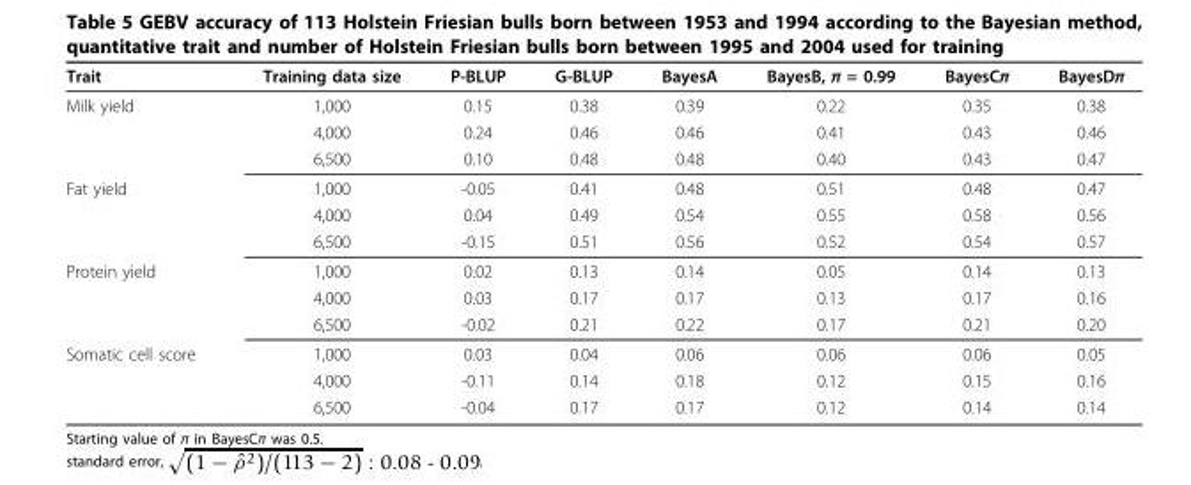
<table><thead><tr><td>Trait</td><td>Training data size</td><td>P-BLUP</td><td>G-BLUP</td><td>BayesA</td><td>BayesB, π = 0.99</td><td>BayesCπ</td><td>BayesDπ</td></tr></thead><tbody><tr><td rowspan="3">Milk yield</td><td>1,000</td><td>0.15</td><td>0.38</td><td>0.39</td><td>0.22</td><td>0.35</td><td>0.38</td></tr><tr><td>4,000</td><td>0.24</td><td>0.46</td><td>0.46</td><td>0.41</td><td>0.43</td><td>0.46</td></tr><tr><td>6,500</td><td>0.10</td><td>0.48</td><td>0.48</td><td>0.40</td><td>0.43</td><td>0.47</td></tr><tr><td rowspan="3">Fat yield</td><td>1,000</td><td>-0.05</td><td>0.41</td><td>0.48</td><td>0.51</td><td>0.48</td><td>0.47</td></tr><tr><td>4,000</td><td>0.04</td><td>0.49</td><td>0.54</td><td>0.55</td><td>0.58</td><td>0.56</td></tr><tr><td>6,500</td><td>-0.15</td><td>0.51</td><td>0.56</td><td>0.52</td><td>0.54</td><td>0.57</td></tr><tr><td rowspan="3">Protein yield</td><td>1,000</td><td>0.02</td><td>0.13</td><td>0.14</td><td>0.05</td><td>0.14</td><td>0.13</td></tr><tr><td>4,000</td><td>0.03</td><td>0.17</td><td>0.17</td><td>0.13</td><td>0.17</td><td>0.16</td></tr><tr><td>6,500</td><td>-0.02</td><td>0.21</td><td>0.22</td><td>0.17</td><td>0.21</td><td>0.20</td></tr><tr><td rowspan="3">Somatic cell score</td><td>1,000</td><td>0.03</td><td>0.04</td><td>0.06</td><td>0.06</td><td>0.06</td><td>0.05</td></tr><tr><td>4,000</td><td>-0.11</td><td>0.14</td><td>0.18</td><td>0.12</td><td>0.15</td><td>0.16</td></tr><tr><td>6,500</td><td>-0.04</td><td>0.17</td><td>0.17</td><td>0.12</td><td>0.14</td><td>0.14</td></tr></tbody></table>